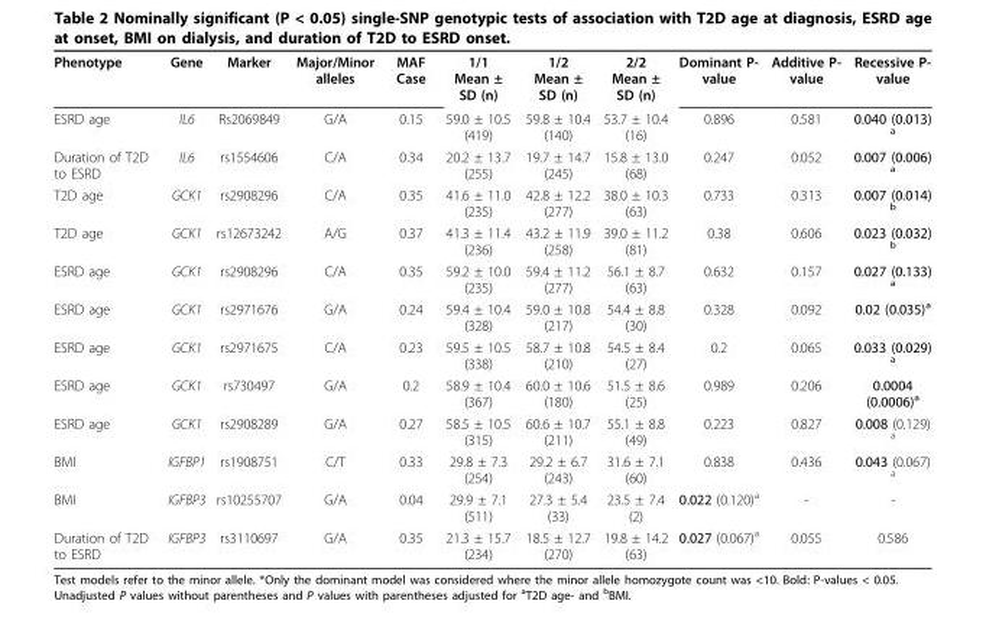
<table><tbody><tr><td>Phenotype</td><td>Gene</td><td>Marker</td><td>Major/Minor alleles</td><td>MAF Case</td><td>1/1 Mean ± SD (n)</td><td>1/2 Mean ± SD (n)</td><td>2/2 Mean ± SD (n)</td><td>Dominant P- value</td><td>Additive P- value</td><td>Recessive P- value</td></tr><tr><td>ESRD age</td><td>IL6</td><td>Rs2069849</td><td>G/A</td><td>0.15</td><td>59.0 ± 10.5 (419)</td><td>59.8 ± 10.4 (140)</td><td>53.7 ± 10.4 (16)</td><td>0.896</td><td>0.581</td><td>0.040 (0.013) <sup>a</sup></td></tr><tr><td>Duration of T2D to ESRD</td><td>IL6</td><td>rs1554606</td><td>C/A</td><td>0.34</td><td>20.2 ± 13.7 (255)</td><td>19.7 ± 14.7 (245)</td><td>15.8 ± 13.0 (68)</td><td>0.247</td><td>0.052</td><td>0.007 (0.006) <sup>a</sup></td></tr><tr><td>T2D age</td><td>GCK1</td><td>rs2908296</td><td>C/A</td><td>0.35</td><td>41.6 ± 11.0 (235)</td><td>42.8 ± 12.2 (277)</td><td>38.0 ± 10.3 (63)</td><td>0.733</td><td>0.313</td><td>0.007 (0.014) <sup>b</sup></td></tr><tr><td>T2D age</td><td>GCK1</td><td>rs12673242</td><td>A/G</td><td>0.37</td><td>41.3 ± 11.4 (236)</td><td>43.2 ± 11.9 (258)</td><td>39.0 ± 11.2 (81)</td><td>0.38</td><td>0.606</td><td>0.023 (0.032) <sup>b</sup></td></tr><tr><td>ESRD age</td><td>GCK1</td><td>rs2908296</td><td>C/A</td><td>0.35</td><td>59.2 ± 10.0 (235)</td><td>59.4 ± 11.2 (277)</td><td>56.1 ± 8.7 (63)</td><td>0.632</td><td>0.157</td><td>0.027 (0.133) <sup>a</sup></td></tr><tr><td>ESRD age</td><td>GCK1</td><td>rs2971676</td><td>G/A</td><td>0.24</td><td>59.4 ± 10.4 (328)</td><td>59.0 ± 10.8 (217)</td><td>54.4 ± 8.8 (30)</td><td>0.328</td><td>0.092</td><td>0.02 (0.035)<sup>a</sup></td></tr><tr><td>ESRD age</td><td>GCK1</td><td>rs2971675</td><td>C/A</td><td>0.23</td><td>59.5 ± 10.5 (338)</td><td>58.7 ± 10.8 (210)</td><td>54.5 ± 8.4 (27)</td><td>0.2</td><td>0.065</td><td>0.033 (0.029) <sup>a</sup></td></tr><tr><td>ESRD age</td><td>GCK1</td><td>rs730497</td><td>G/A</td><td>0.2</td><td>58.9 ± 10.4 (367)</td><td>60.0 ± 10.6 (180)</td><td>51.5 ± 8.6 (25)</td><td>0.989</td><td>0.206</td><td>0.0004 (0.0006)<sup>a</sup></td></tr><tr><td>ESRD age</td><td>GCK1</td><td>rs2908289</td><td>G/A</td><td>0.27</td><td>58.5 ± 10.5 (315)</td><td>60.6 ± 10.7 (211)</td><td>55.1 ± 8.8 (49)</td><td>0.223</td><td>0.827</td><td>0.008 (0.129) <sup>a</sup></td></tr><tr><td>BMI</td><td>IGFBP1</td><td>rs1908751</td><td>C/T</td><td>0.33</td><td>29.8 ± 7.3 (254)</td><td>29.2 ± 6.7 (243)</td><td>31.6 ± 7.1 (60)</td><td>0.838</td><td>0.436</td><td>0.043 (0.067) <sup>a</sup></td></tr><tr><td>BMI</td><td>IGFBP3</td><td>rs10255707</td><td>G/A</td><td>0.04</td><td>29.9 ± 7.1 (511)</td><td>27.3 ± 5.4 (33)</td><td>23.5 ± 7.4 (2)</td><td>0.022 (0.120)<sup>a</sup></td><td>-</td><td>-</td></tr><tr><td>Duration of T2D to ESRD</td><td>IGFBP3</td><td>rs3110697</td><td>G/A</td><td>0.35</td><td>21.3 ± 15.7 (234)</td><td>18.5 ± 12.7 (270)</td><td>19.8 ± 14.2 (63)</td><td>0.027 (0.067)<sup>a</sup></td><td>0.055</td><td>0.586</td></tr></tbody></table>